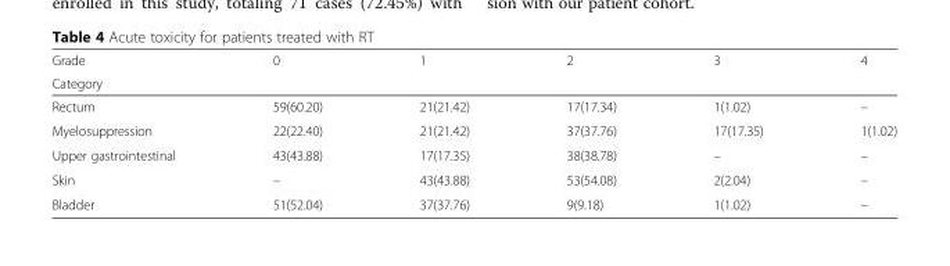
<table><thead><tr><td rowspan="2">Grade Category</td><td rowspan="2">0</td><td rowspan="2">1</td><td rowspan="2">2</td><td rowspan="2">3</td><td rowspan="2">4</td></tr><tr></tr></thead><tbody><tr><td>Rectum</td><td>59(60.20)</td><td>21(21.42)</td><td>17(17.34)</td><td>1(1.02)</td><td>–</td></tr><tr><td>Myelosuppression</td><td>22(22.40)</td><td>21(21.42)</td><td>37(37.76)</td><td>17(17.35)</td><td>1(1.02)</td></tr><tr><td>Upper gastrointestinal</td><td>43(43.88)</td><td>17(17.35)</td><td>38(38.78)</td><td>–</td><td>–</td></tr><tr><td>Skin</td><td>–</td><td>43(43.88)</td><td>53(54.08)</td><td>2(2.04)</td><td>–</td></tr><tr><td>Bladder</td><td>51(52.04)</td><td>37(37.76)</td><td>9(9.18)</td><td>1(1.02)</td><td>–</td></tr></tbody></table>